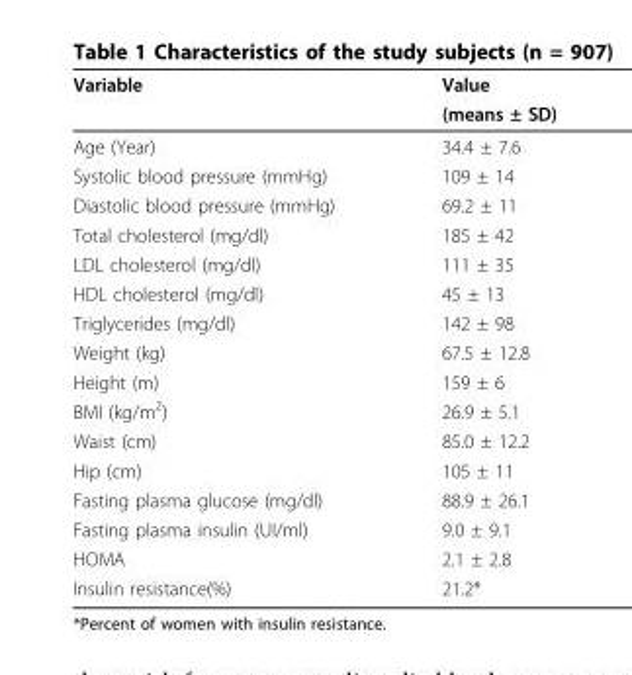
<table><thead><tr><td rowspan="2">Variable</td><td rowspan="2">Value (means ± SD)</td></tr><tr></tr></thead><tbody><tr><td>Age (Year)</td><td>34.4 ± 7.6</td></tr><tr><td>Systolic blood pressure (mmHg)</td><td>109 ± 14</td></tr><tr><td>Diastolic blood pressure (mmHg)</td><td>69.2 ± 11</td></tr><tr><td>Total cholesterol (mg/dl)</td><td>185 ± 42</td></tr><tr><td>LDL cholesterol (mg/dl)</td><td>111 ± 35</td></tr><tr><td>HDL cholesterol (mg/dl)</td><td>45 ± 13</td></tr><tr><td>Triglycerides (mg/dl)</td><td>142 ± 98</td></tr><tr><td>Weight (kg)</td><td>67.5 ± 12.8</td></tr><tr><td>Height (m)</td><td>159 ± 6</td></tr><tr><td>BMI (kg/m<sup>2</sup>)</td><td>26.9 ± 5.1</td></tr><tr><td>Waist (cm)</td><td>85.0 ± 12.2</td></tr><tr><td>Hip (cm)</td><td>105 ± 11</td></tr><tr><td>Fasting plasma glucose (mg/dl)</td><td>88.9 ± 26.1</td></tr><tr><td>Fasting plasma insulin (UI/ml)</td><td>9.0 ± 9.1</td></tr><tr><td>HOMA</td><td>2.1 ± 2.8</td></tr><tr><td>Insulin resistance(%)</td><td>21.2*</td></tr></tbody></table>